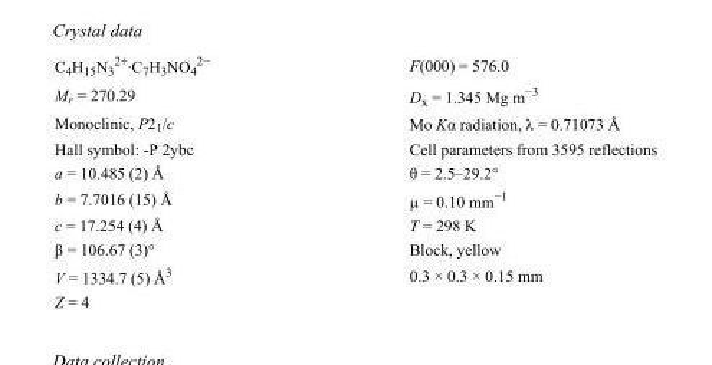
<table><tbody><tr><td>C<sub>4</sub>H<sub>15</sub>N<sub>3</sub> <sup>2+</sup>·C<sub>7</sub>H<sub>3</sub>NO<sub>4</sub> <sup>2−</sup></td><td>F(000) = 576.0</td></tr><tr><td>M<sub>r</sub> = 270.29</td><td>D<sub>x</sub> = 1.345 Mg m<sup>−3</sup></td></tr><tr><td>Monoclinic, P2<sub>1</sub>/c</td><td>Mo Kα radiation, λ = 0.71073 Å</td></tr><tr><td>Hall symbol: -P 2ybc</td><td>Cell parameters from 3595 reflections</td></tr><tr><td>a = 10.485 (2) Å</td><td>θ = 2.5–29.2°</td></tr><tr><td>b = 7.7016 (15) Å</td><td>µ = 0.10 mm<sup>−1</sup></td></tr><tr><td>c = 17.254 (4) Å</td><td>T = 298 K</td></tr><tr><td>β = 106.67 (3)°</td><td>Block, yellow</td></tr><tr><td>V = 1334.7 (5) Å<sup>3</sup></td><td>0.3 × 0.3 × 0.15 mm</td></tr><tr><td>Z = 4</td><td></td></tr></tbody></table>